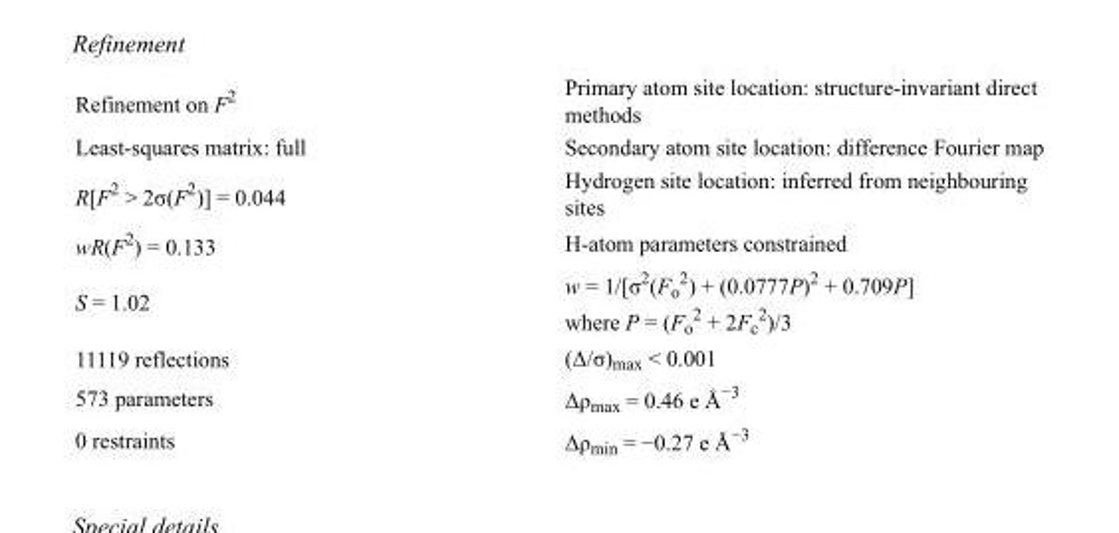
<table><tbody><tr><td>Refinement on F<sup>2</sup></td><td>Primary atom site location: structure-invariant direct methods</td></tr><tr><td>Least-squares matrix: full</td><td>Secondary atom site location: difference Fourier map</td></tr><tr><td>R[F<sup>2</sup> &gt; 2σ(F<sup>2</sup>)] = 0.044</td><td>Hydrogen site location: inferred from neighbouring sites</td></tr><tr><td>wR(F<sup>2</sup>) = 0.133</td><td>H-atom parameters constrained</td></tr><tr><td>S = 1.02</td><td>w = 1/[σ<sup>2</sup>(F<sub>o</sub> <sup>2</sup>) + (0.0777P)<sup>2</sup> + 0.709P] where P = (F<sub>o</sub> <sup>2</sup> + 2F<sub>c</sub> <sup>2</sup>)/3</td></tr><tr><td>11119 reflections</td><td>(Δ/σ)<sub>max</sub> &lt; 0.001</td></tr><tr><td>573 parameters</td><td>Δρ<sub>max</sub> = 0.46 e Å<sup>−3</sup></td></tr><tr><td>0 restraints</td><td>Δρ<sub>min</sub> = −0.27 e Å<sup>−3</sup></td></tr></tbody></table>